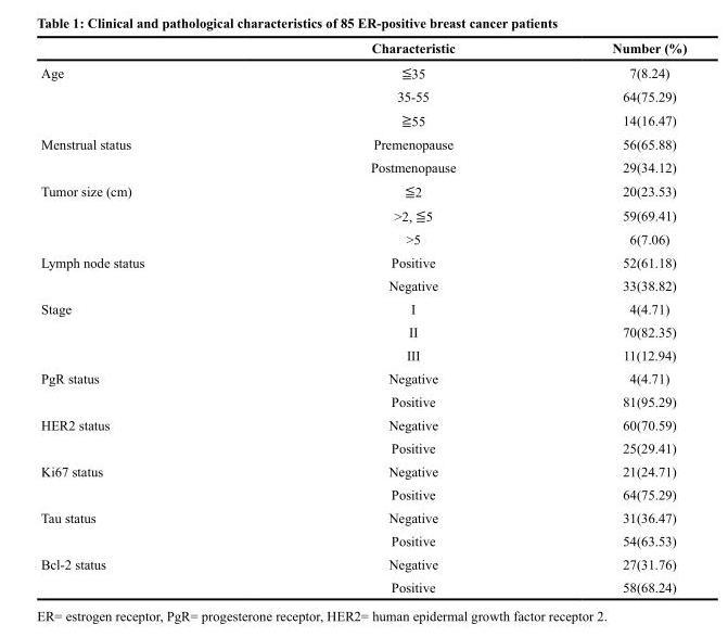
<table><thead><tr><td></td><td>Characteristic</td><td>Number (%)</td></tr></thead><tbody><tr><td rowspan="3">Age</td><td>≦35</td><td>7(8.24)</td></tr><tr><td>35-55</td><td>64(75.29)</td></tr><tr><td>≧55</td><td>14(16.47)</td></tr><tr><td rowspan="2">Menstrual status</td><td>Premenopause</td><td>56(65.88)</td></tr><tr><td>Postmenopause</td><td>29(34.12)</td></tr><tr><td rowspan="3">Tumor size (cm)</td><td>≦2</td><td>20(23.53)</td></tr><tr><td>&gt;2, ≦5</td><td>59(69.41)</td></tr><tr><td>&gt;5</td><td>6(7.06)</td></tr><tr><td rowspan="2">Lymph node status</td><td>Positive</td><td>52(61.18)</td></tr><tr><td>Negative</td><td>33(38.82)</td></tr><tr><td rowspan="3">Stage</td><td>I</td><td>4(4.71)</td></tr><tr><td>II</td><td>70(82.35)</td></tr><tr><td>III</td><td>11(12.94)</td></tr><tr><td rowspan="2">PgR status</td><td>Negative</td><td>4(4.71)</td></tr><tr><td>Positive</td><td>81(95.29)</td></tr><tr><td rowspan="2">HER2 status</td><td>Negative</td><td>60(70.59)</td></tr><tr><td>Positive</td><td>25(29.41)</td></tr><tr><td rowspan="2">Ki67 status</td><td>Negative</td><td>21(24.71)</td></tr><tr><td>Positive</td><td>64(75.29)</td></tr><tr><td rowspan="2">Tau status</td><td>Negative</td><td>31(36.47)</td></tr><tr><td>Positive</td><td>54(63.53)</td></tr><tr><td rowspan="2">Bcl-2 status</td><td>Negative</td><td>27(31.76)</td></tr><tr><td>Positive</td><td>58(68.24)</td></tr></tbody></table>